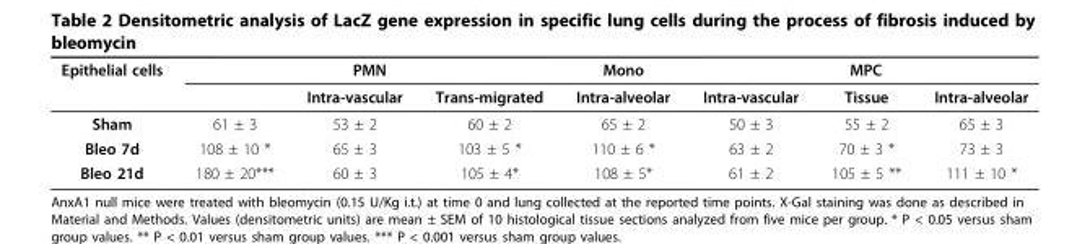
<table><thead><tr><td rowspan="2">Epithelial cells</td><td colspan="3">PMN</td><td rowspan="2">Mono Intra-alveolar</td><td colspan="3">MPC</td></tr><tr><td></td><td>Intra-vascular</td><td>Trans-migrated</td><td>Intra-vascular</td><td>Tissue</td><td>Intra-alveolar</td></tr></thead><tbody><tr><td>Sham</td><td>61 ± 3</td><td>53 ± 2</td><td>60 ± 2</td><td>65 ± 2</td><td>50 ± 3</td><td>55 ± 2</td><td>65 ± 3</td></tr><tr><td>Bleo 7d</td><td>108 ± 10 *</td><td>65 ± 3</td><td>103 ± 5 *</td><td>110 ± 6 *</td><td>63 ± 2</td><td>70 ± 3 *</td><td>73 ± 3</td></tr><tr><td>Bleo 21d</td><td>180 ± 20***</td><td>60 ± 3</td><td>105 ± 4*</td><td>108 ± 5*</td><td>61 ± 2</td><td>105 ± 5 **</td><td>111 ± 10 *</td></tr></tbody></table>